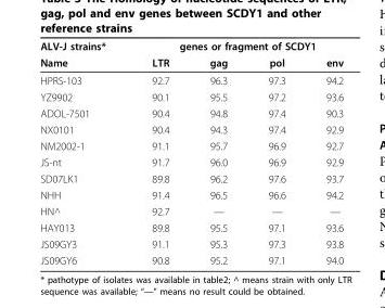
<table><thead><tr><td rowspan="2">ALV-J strains* Name</td><td colspan="4">genes or fragment of SCDY1</td></tr><tr><td>LTR</td><td>gag</td><td>pol</td><td>env</td></tr></thead><tbody><tr><td>HPRS-103</td><td>92.7</td><td>96.3</td><td>97.3</td><td>94.2</td></tr><tr><td>YZ9902</td><td>90.1</td><td>95.5</td><td>97.2</td><td>93.6</td></tr><tr><td>ADOL-7501</td><td>90.4</td><td>94.8</td><td>97.4</td><td>90.3</td></tr><tr><td>NX0101</td><td>90.4</td><td>94.3</td><td>97.4</td><td>92.9</td></tr><tr><td>NM2002-1</td><td>91.1</td><td>95.7</td><td>96.9</td><td>92.7</td></tr><tr><td>JS-nt</td><td>91.7</td><td>96.0</td><td>96.9</td><td>92.9</td></tr><tr><td>SD07LK1</td><td>89.8</td><td>96.2</td><td>97.6</td><td>93.7</td></tr><tr><td>NHH</td><td>91.4</td><td>96.5</td><td>96.6</td><td>94.2</td></tr><tr><td>HN^</td><td>92.7</td><td>—</td><td>—</td><td>—</td></tr><tr><td>HAY013</td><td>89.8</td><td>95.5</td><td>97.1</td><td>93.6</td></tr><tr><td>JS09GY3</td><td>91.1</td><td>95.3</td><td>97.3</td><td>93.8</td></tr><tr><td>JS09GY6</td><td>90.8</td><td>95.2</td><td>97.1</td><td>94.0</td></tr></tbody></table>